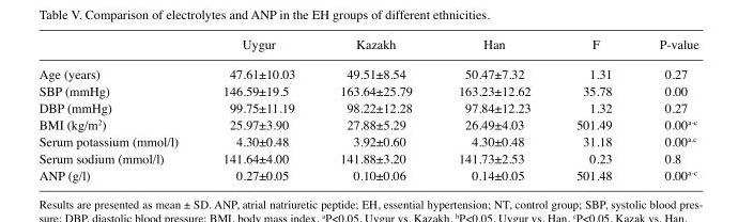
<table><thead><tr><td></td><td>Uygur</td><td>Kazakh</td><td>Han</td><td>F</td><td>P-value</td></tr></thead><tbody><tr><td>Age (years)</td><td>47.61±10.03</td><td>49.51±8.54</td><td>50.47±7.32</td><td>1.31</td><td>0.27</td></tr><tr><td>SBP (mmHg)</td><td>146.59±19.5</td><td>163.64±25.79</td><td>163.23±12.62</td><td>35.78</td><td>0.00</td></tr><tr><td>DBP (mmHg)</td><td>99.75±11.19</td><td>98.22±12.28</td><td>97.84±12.23</td><td>1.32</td><td>0.27</td></tr><tr><td>BMI (kg/m<sup>2</sup>)</td><td>25.97±3.90</td><td>27.88±5.29</td><td>26.49±4.03</td><td>501.49</td><td>0.00<sup>a-c</sup></td></tr><tr><td>Serum potassium (mmol/l)</td><td>4.30±0.48</td><td>3.92±0.60</td><td>4.30±0.48</td><td>31.18</td><td>0.00<sup>a,c</sup></td></tr><tr><td>Serum sodium (mmol/l)</td><td>141.64±4.00</td><td>141.88±3.20</td><td>141.73±2.53</td><td>0.23</td><td>0.8</td></tr><tr><td>ANP (g/l)</td><td>0.27±0.05</td><td>0.10±0.06</td><td>0.14±0.05</td><td>501.48</td><td>0.00<sup>a-c</sup></td></tr></tbody></table>